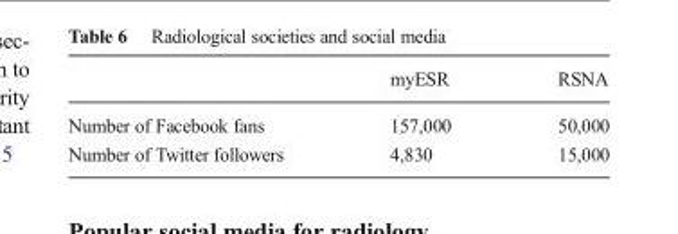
<table><thead><tr><td></td><td>myESR</td><td>RSNA</td></tr></thead><tbody><tr><td>Number of Facebook fans</td><td>157,000</td><td>50,000</td></tr><tr><td>Number of Twitter followers</td><td>4,830</td><td>15,000</td></tr></tbody></table>